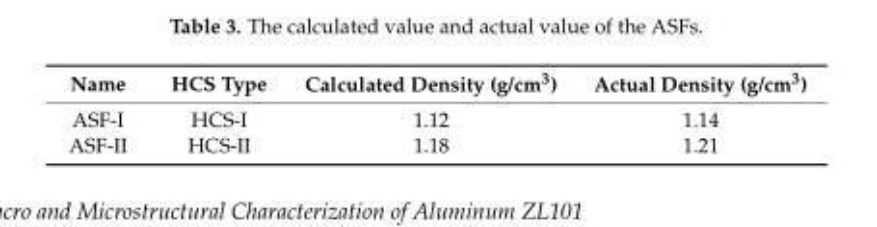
<table><thead><tr><td>Name</td><td>HCS Type</td><td>Calculated Density (g/cm<sup>3</sup>)</td><td>Actual Density (g/cm<sup>3</sup>)</td></tr></thead><tbody><tr><td>ASF-I</td><td>HCS-I</td><td>1.12</td><td>1.14</td></tr><tr><td>ASF-II</td><td>HCS-II</td><td>1.18</td><td>1.21</td></tr></tbody></table>